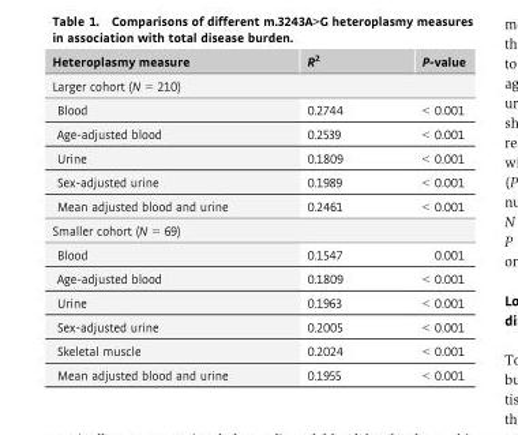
<table><thead><tr><td>Heteroplasmy measure</td><td>R<sup>2</sup></td><td>P-value</td></tr></thead><tbody><tr><td colspan="3">Larger cohort (N = 210)</td></tr><tr><td>Blood</td><td>0.2744</td><td>&lt; 0.001</td></tr><tr><td>Age-adjusted blood</td><td>0.2539</td><td>&lt; 0.001</td></tr><tr><td>Urine</td><td>0.1809</td><td>&lt; 0.001</td></tr><tr><td>Sex-adjusted urine</td><td>0.1989</td><td>&lt; 0.001</td></tr><tr><td>Mean adjusted blood and urine</td><td>0.2461</td><td>&lt; 0.001</td></tr><tr><td colspan="3">Smaller cohort (N = 69)</td></tr><tr><td>Blood</td><td>0.1547</td><td>0.001</td></tr><tr><td>Age-adjusted blood</td><td>0.1809</td><td>&lt; 0.001</td></tr><tr><td>Urine</td><td>0.1963</td><td>&lt; 0.001</td></tr><tr><td>Sex-adjusted urine</td><td>0.2005</td><td>&lt; 0.001</td></tr><tr><td>Skeletal muscle</td><td>0.2024</td><td>&lt; 0.001</td></tr><tr><td>Mean adjusted blood and urine</td><td>0.1955</td><td>&lt; 0.001</td></tr></tbody></table>